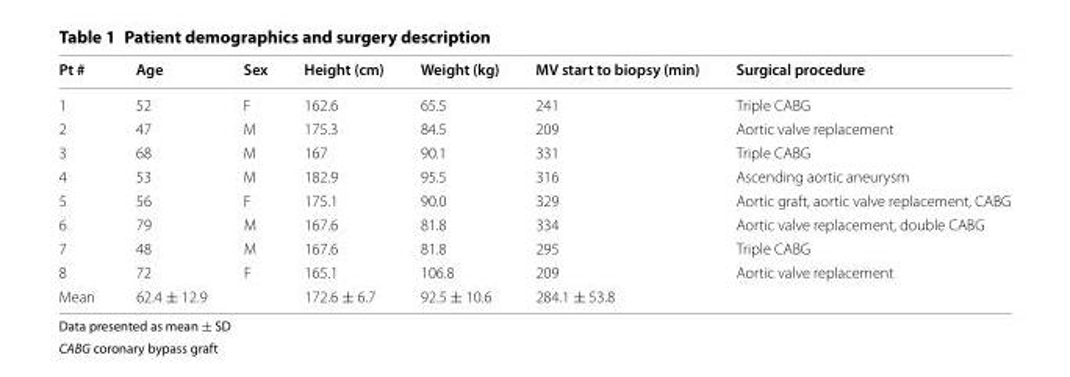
<table><thead><tr><td>Pt #</td><td>Age</td><td>Sex</td><td>Height (cm)</td><td>Weight (kg)</td><td>MV start to biopsy (min)</td><td>Surgical procedure</td></tr></thead><tbody><tr><td>1</td><td>52</td><td>F</td><td>162.6</td><td>65.5</td><td>241</td><td>Triple CABG</td></tr><tr><td>2</td><td>47</td><td>M</td><td>175.3</td><td>84.5</td><td>209</td><td>Aortic valve replacement</td></tr><tr><td>3</td><td>68</td><td>M</td><td>167</td><td>90.1</td><td>331</td><td>Triple CABG</td></tr><tr><td>4</td><td>53</td><td>M</td><td>182.9</td><td>95.5</td><td>316</td><td>Ascending aortic aneurysm</td></tr><tr><td>5</td><td>56</td><td>F</td><td>175.1</td><td>90.0</td><td>329</td><td>Aortic graft, aortic valve replacement, CABG</td></tr><tr><td>6</td><td>79</td><td>M</td><td>167.6</td><td>81.8</td><td>334</td><td>Aortic valve replacement, double CABG</td></tr><tr><td>7</td><td>48</td><td>M</td><td>167.6</td><td>81.8</td><td>295</td><td>Triple CABG</td></tr><tr><td>8</td><td>72</td><td>F</td><td>165.1</td><td>106.8</td><td>209</td><td>Aortic valve replacement</td></tr><tr><td>Mean</td><td colspan="2">62.4 ± 12.9</td><td>172.6 ± 6.7</td><td>92.5 ± 10.6</td><td>284.1 ± 53.8</td><td></td></tr></tbody></table>